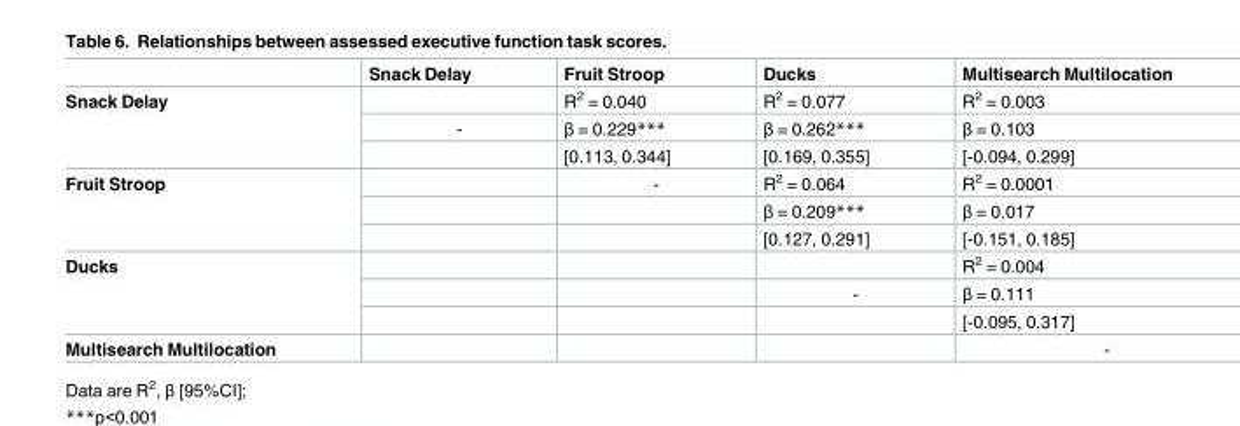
<table><thead><tr><td></td><td>Snack Delay</td><td>Fruit Stroop</td><td>Ducks</td><td>Multisearch Multilocation</td></tr></thead><tbody><tr><td rowspan="3">Snack Delay</td><td></td><td>R<sup>2</sup> = 0.040</td><td>R<sup>2</sup> = 0.077</td><td>R<sup>2</sup> = 0.003</td></tr><tr><td>-</td><td>β = 0.229***</td><td>β = 0.262***</td><td>β = 0.103</td></tr><tr><td></td><td>[0.113, 0.344]</td><td>[0.169, 0.355]</td><td>[-0.094, 0.299]</td></tr><tr><td rowspan="3">Fruit Stroop</td><td></td><td>-</td><td>R<sup>2</sup> = 0.064</td><td>R<sup>2</sup> = 0.0001</td></tr><tr><td></td><td></td><td>β = 0.209***</td><td>β = 0.017</td></tr><tr><td></td><td></td><td>[0.127, 0.291]</td><td>[-0.151, 0.185]</td></tr><tr><td rowspan="3">Ducks</td><td></td><td></td><td></td><td>R<sup>2</sup> = 0.004</td></tr><tr><td></td><td></td><td>-</td><td>β = 0.111</td></tr><tr><td></td><td></td><td></td><td>[-0.095, 0.317]</td></tr><tr><td>Multisearch Multilocation</td><td></td><td></td><td></td><td>-</td></tr></tbody></table>